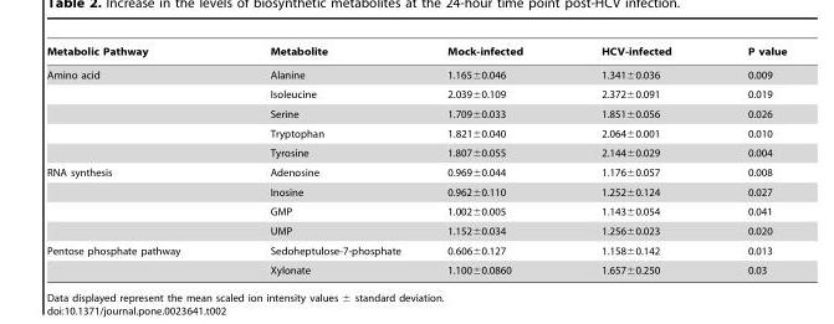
<table><thead><tr><td>Metabolic Pathway</td><td>Metabolite</td><td>Mock-infected</td><td>HCV-infected</td><td>P value</td></tr></thead><tbody><tr><td rowspan="5">Amino acid</td><td>Alanine</td><td>1.165±0.046</td><td>1.341±0.036</td><td>0.009</td></tr><tr><td>Isoleucine</td><td>2.039±0.109</td><td>2.372±0.091</td><td>0.019</td></tr><tr><td>Serine</td><td>1.709±0.033</td><td>1.851±0.056</td><td>0.026</td></tr><tr><td>Tryptophan</td><td>1.821±0.040</td><td>2.064±0.001</td><td>0.010</td></tr><tr><td>Tyrosine</td><td>1.807±0.055</td><td>2.144±0.029</td><td>0.004</td></tr><tr><td rowspan="4">RNA synthesis</td><td>Adenosine</td><td>0.969±0.044</td><td>1.176±0.057</td><td>0.008</td></tr><tr><td>Inosine</td><td>0.962±0.110</td><td>1.252±0.124</td><td>0.027</td></tr><tr><td>GMP</td><td>1.002±0.005</td><td>1.143±0.054</td><td>0.041</td></tr><tr><td>UMP</td><td>1.152±0.034</td><td>1.256±0.023</td><td>0.020</td></tr><tr><td rowspan="2">Pentose phosphate pathway</td><td>Sedoheptulose-7-phosphate</td><td>0.606±0.127</td><td>1.158±0.142</td><td>0.013</td></tr><tr><td>Xylonate</td><td>1.100±0.0860</td><td>1.657±0.250</td><td>0.03</td></tr></tbody></table>